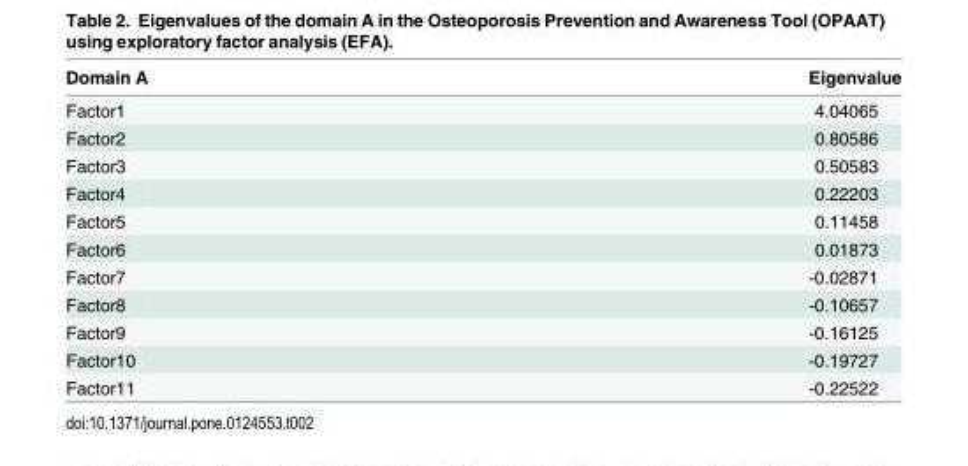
<table><thead><tr><td>Domain A</td><td>Eigenvalue</td></tr></thead><tbody><tr><td>Factor1</td><td>4.04065</td></tr><tr><td>Factor2</td><td>0.80586</td></tr><tr><td>Factor3</td><td>0.50583</td></tr><tr><td>Factor4</td><td>0.22203</td></tr><tr><td>Factor5</td><td>0.11458</td></tr><tr><td>Factor6</td><td>0.01873</td></tr><tr><td>Factor7</td><td>-0.02871</td></tr><tr><td>Factor8</td><td>-0.10657</td></tr><tr><td>Factor9</td><td>-0.16125</td></tr><tr><td>Factor10</td><td>-0.19727</td></tr><tr><td>Factor11</td><td>-0.22522</td></tr></tbody></table>